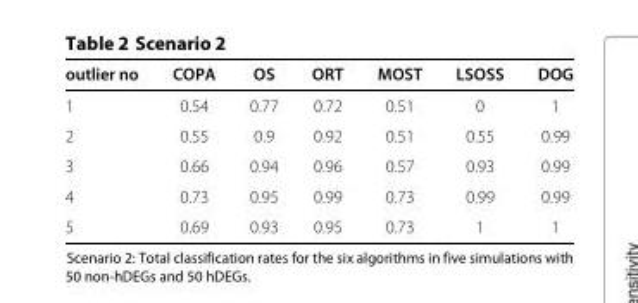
<table><thead><tr><td>outlier no</td><td>COPA</td><td>OS</td><td>ORT</td><td>MOST</td><td>LSOSS</td><td>DOG</td></tr></thead><tbody><tr><td>1</td><td>0.54</td><td>0.77</td><td>0.72</td><td>0.51</td><td>0</td><td>1</td></tr><tr><td>2</td><td>0.55</td><td>0.9</td><td>0.92</td><td>0.51</td><td>0.55</td><td>0.99</td></tr><tr><td>3</td><td>0.66</td><td>0.94</td><td>0.96</td><td>0.57</td><td>0.93</td><td>0.99</td></tr><tr><td>4</td><td>0.73</td><td>0.95</td><td>0.99</td><td>0.73</td><td>0.99</td><td>0.99</td></tr><tr><td>5</td><td>0.69</td><td>0.93</td><td>0.95</td><td>0.73</td><td>1</td><td>1</td></tr></tbody></table>